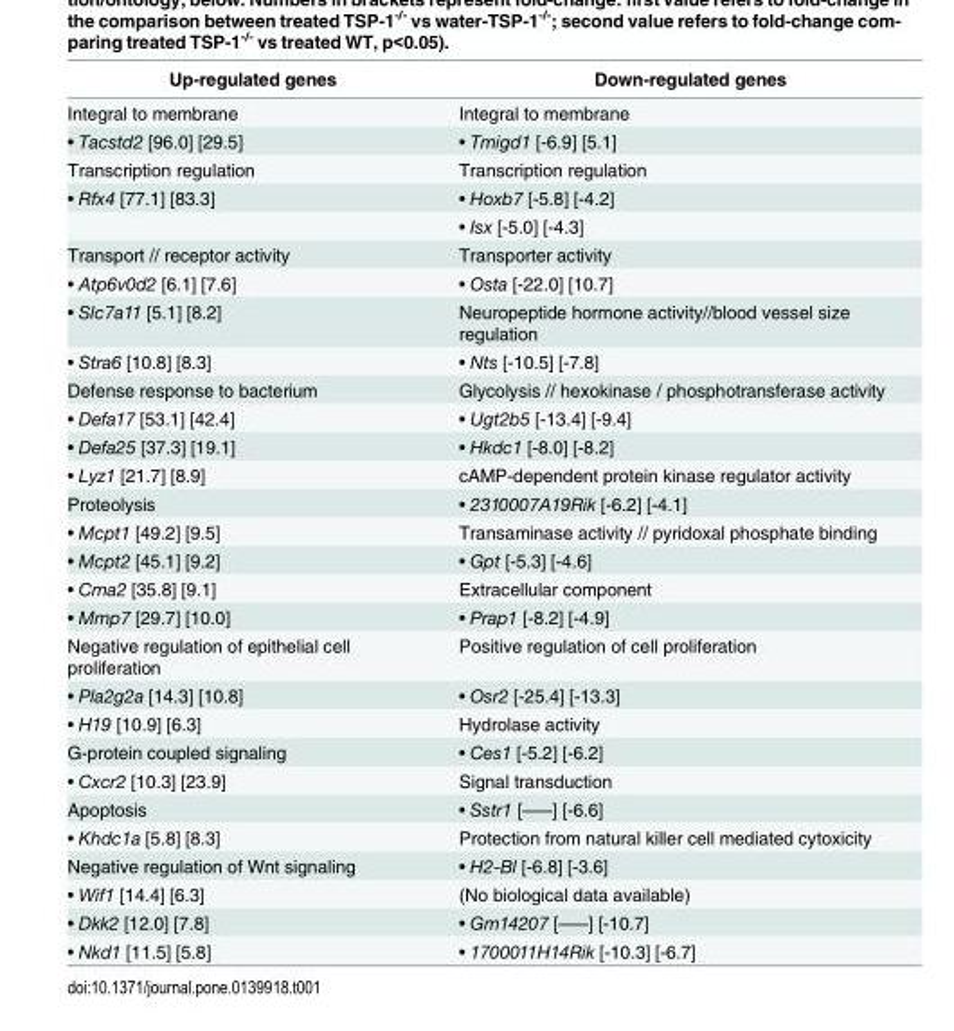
<table><thead><tr><td>Up-regulated genes</td><td>Down-regulated genes</td></tr></thead><tbody><tr><td>Integral to membrane</td><td>Integral to membrane</td></tr><tr><td>• Tacstd2 [96.0] [29.5]</td><td>• Tmigd1 [-6.9] [5.1]</td></tr><tr><td>Transcription regulation</td><td>Transcription regulation</td></tr><tr><td rowspan="2">• Rfx4 [77.1] [83.3]</td><td>• Hoxb7 [-5.8] [-4.2]</td></tr><tr><td>• Isx [-5.0] [-4.3]</td></tr><tr><td>Transport // receptor activity</td><td>Transporter activity</td></tr><tr><td>• Atp6v0d2 [6.1] [7.6]</td><td>• Osta [-22.0] [10.7]</td></tr><tr><td>• Slc7a11 [5.1] [8.2]</td><td>Neuropeptide hormone activity//blood vessel size regulation</td></tr><tr><td>• Stra6 [10.8] [8.3]</td><td>• Nts [-10.5] [-7.8]</td></tr><tr><td>Defense response to bacterium</td><td>Glycolysis // hexokinase / phosphotransferase activity</td></tr><tr><td>• Defa17 [53.1] [42.4]</td><td>• Ugt2b5 [-13.4] [-9.4]</td></tr><tr><td>• Defa25 [37.3] [19.1]</td><td>• Hkdc1 [-8.0] [-8.2]</td></tr><tr><td>• Lyz1 [21.7] [8.9]</td><td>cAMP-dependent protein kinase regulator activity</td></tr><tr><td>Proteolysis</td><td>• 2310007A19Rik [-6.2] [-4.1]</td></tr><tr><td>• Mcpt1 [49.2] [9.5]</td><td>Transaminase activity // pyridoxal phosphate binding</td></tr><tr><td>• Mcpt2 [45.1] [9.2]</td><td>• Gpt [-5.3] [-4.6]</td></tr><tr><td>• Cma2 [35.8] [9.1]</td><td>Extracellular component</td></tr><tr><td>• Mmp7 [29.7] [10.0]</td><td>• Prap1 [-8.2] [-4.9]</td></tr><tr><td>Negative regulation of epithelial cell proliferation</td><td>Positive regulation of cell proliferation</td></tr><tr><td>• Pla2g2a [14.3] [10.8]</td><td>• Osr2 [-25.4] [-13.3]</td></tr><tr><td>• H19 [10.9] [6.3]</td><td>Hydrolase activity</td></tr><tr><td>G-protein coupled signaling</td><td>• Ces1 [-5.2] [-6.2]</td></tr><tr><td>• Cxcr2 [10.3] [23.9]</td><td>Signal transduction</td></tr><tr><td>Apoptosis</td><td>• Sstr1 [–––] [-6.6]</td></tr><tr><td>• Khdc1a [5.8] [8.3]</td><td>Protection from natural killer cell mediated cytoxicity</td></tr><tr><td>Negative regulation of Wnt signaling</td><td>• H2-Bl [-6.8] [-3.6]</td></tr><tr><td>• Wif1 [14.4] [6.3]</td><td>(No biological data available)</td></tr><tr><td>• Dkk2 [12.0] [7.8]</td><td>• Gm14207 [–––] [-10.7]</td></tr><tr><td>• Nkd1 [11.5] [5.8]</td><td>• 1700011H14Rik [-10.3] [-6.7]</td></tr></tbody></table>